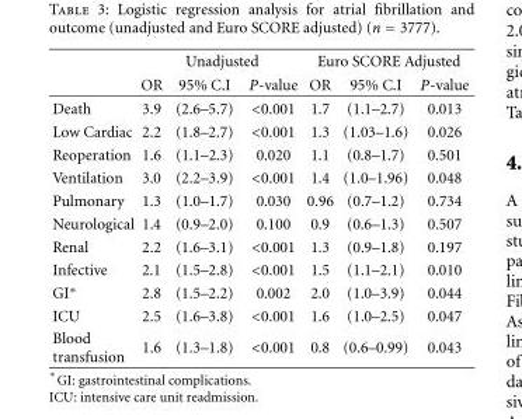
<table><thead><tr><td rowspan="2"></td><td colspan="3">Unadjusted</td><td colspan="3">Euro SCORE Adjusted</td></tr><tr><td>OR</td><td>95% C.I</td><td>P-value</td><td>OR</td><td>95% C.I</td><td>P-value</td></tr></thead><tbody><tr><td>Death</td><td>3.9</td><td>(2.6–5.7)</td><td>&lt;0.001</td><td>1.7</td><td>(1.1–2.7)</td><td>0.013</td></tr><tr><td>Low Cardiac</td><td>2.2</td><td>(1.8–2.7)</td><td>&lt;0.001</td><td>1.3</td><td>(1.03–1.6)</td><td>0.026</td></tr><tr><td>Reoperation</td><td>1.6</td><td>(1.1–2.3)</td><td>0.020</td><td>1.1</td><td>(0.8–1.7)</td><td>0.501</td></tr><tr><td>Ventilation</td><td>3.0</td><td>(2.2–3.9)</td><td>&lt;0.001</td><td>1.4</td><td>(1.0–1.96)</td><td>0.048</td></tr><tr><td>Pulmonary</td><td>1.3</td><td>(1.0–1.7)</td><td>0.030</td><td>0.96</td><td>(0.7–1.2)</td><td>0.734</td></tr><tr><td>Neurological</td><td>1.4</td><td>(0.9–2.0)</td><td>0.100</td><td>0.9</td><td>(0.6–1.3)</td><td>0.507</td></tr><tr><td>Renal</td><td>2.2</td><td>(1.6–3.1)</td><td>&lt;0.001</td><td>1.3</td><td>(0.9–1.8)</td><td>0.197</td></tr><tr><td>Infective</td><td>2.1</td><td>(1.5–2.8)</td><td>&lt;0.001</td><td>1.5</td><td>(1.1–2.1)</td><td>0.010</td></tr><tr><td>GI∗</td><td>2.8</td><td>(1.5–2.2)</td><td>0.002</td><td>2.0</td><td>(1.0–3.9)</td><td>0.044</td></tr><tr><td>ICU</td><td>2.5</td><td>(1.6–3.8)</td><td>&lt;0.001</td><td>1.6</td><td>(1.0–2.5)</td><td>0.047</td></tr><tr><td>Blood transfusion</td><td>1.6</td><td>(1.3–1.8)</td><td>&lt;0.001</td><td>0.8</td><td>(0.6–0.99)</td><td>0.043</td></tr></tbody></table>